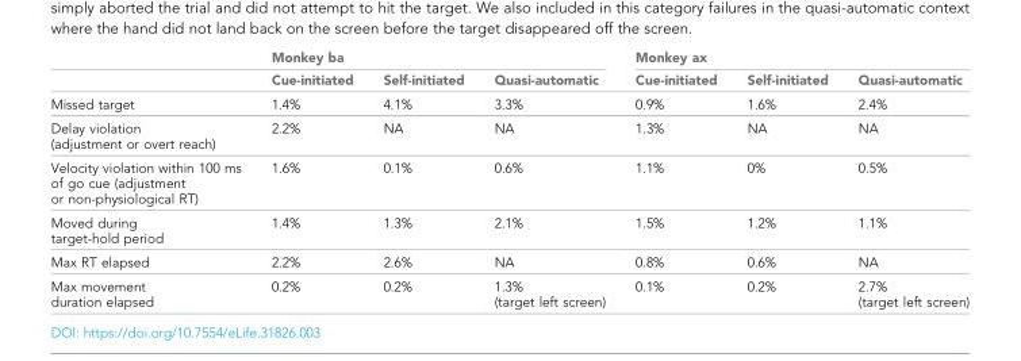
<table><thead><tr><td rowspan="2"></td><td colspan="3">Monkey ba</td><td colspan="3">Monkey ax</td></tr><tr><td>Cue-initiated</td><td>Self-initiated</td><td>Quasi-automatic</td><td>Cue-initiated</td><td>Self-initiated</td><td>Quasi-automatic</td></tr></thead><tbody><tr><td>Missed target</td><td>1.4%</td><td>4.1%</td><td>3.3%</td><td>0.9%</td><td>1.6%</td><td>2.4%</td></tr><tr><td>Delay violation (adjustment or overt reach)</td><td>2.2%</td><td>NA</td><td>NA</td><td>1.3%</td><td>NA</td><td>NA</td></tr><tr><td>Velocity violation within 100 ms of go cue (adjustment or non-physiological RT)</td><td>1.6%</td><td>0.1%</td><td>0.6%</td><td>1.1%</td><td>0%</td><td>0.5%</td></tr><tr><td>Moved during target-hold period</td><td>1.4%</td><td>1.3%</td><td>2.1%</td><td>1.5%</td><td>1.2%</td><td>1.1%</td></tr><tr><td>Max RT elapsed</td><td>2.2%</td><td>2.6%</td><td>NA</td><td>0.8%</td><td>0.6%</td><td>NA</td></tr><tr><td>Max movement duration elapsed</td><td>0.2%</td><td>0.2%</td><td>1.3% (target left screen)</td><td>0.1%</td><td>0.2%</td><td>2.7% (target left screen)</td></tr></tbody></table>